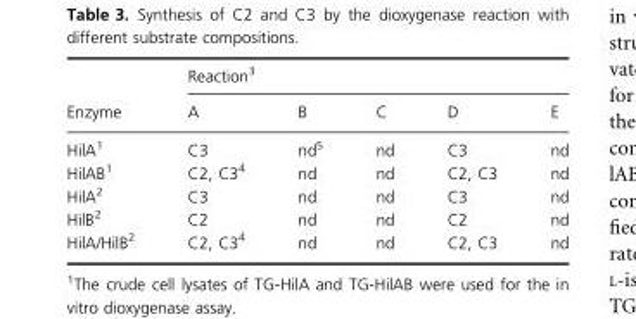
<table><thead><tr><td rowspan="2">Enzyme</td><td colspan="5">Reaction<sup>3</sup></td></tr><tr><td>A</td><td>B</td><td>C</td><td>D</td><td>E</td></tr></thead><tbody><tr><td>HilA<sup>1</sup></td><td>C3</td><td>nd<sup>5</sup></td><td>nd</td><td>C3</td><td>nd</td></tr><tr><td>HilAB<sup>1</sup></td><td>C2, C3<sup>4</sup></td><td>nd</td><td>nd</td><td>C2, C3</td><td>nd</td></tr><tr><td>HilA<sup>2</sup></td><td>C3</td><td>nd</td><td>nd</td><td>C3</td><td>nd</td></tr><tr><td>HilB<sup>2</sup></td><td>C2</td><td>nd</td><td>nd</td><td>C2</td><td>nd</td></tr><tr><td>HilA/HilB<sup>2</sup></td><td>C2, C3<sup>4</sup></td><td>nd</td><td>nd</td><td>C2, C3</td><td>nd</td></tr></tbody></table>